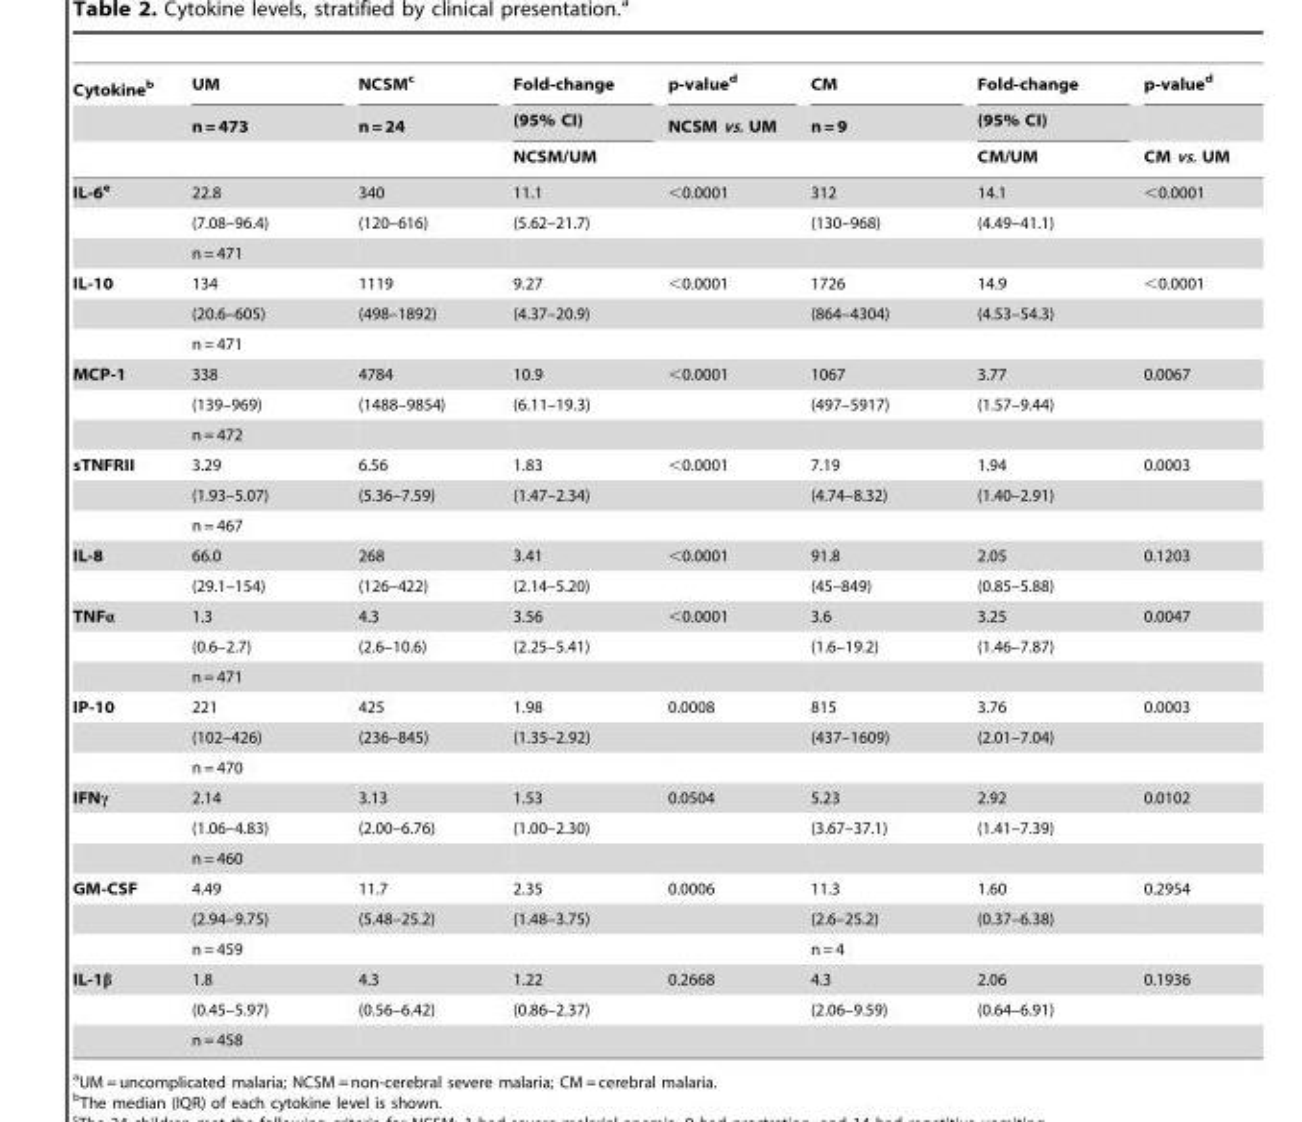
<table><thead><tr><td rowspan="3">Cytokine<sup>b</sup></td><td rowspan="3">UM n = 473</td><td rowspan="3">NCSM<sup>c</sup> n = 24</td><td rowspan="3">Fold-change (95% CI) NCSM/UM</td><td rowspan="3">p-value<sup>d</sup> NCSM vs. UM</td><td rowspan="3">CM n = 9</td><td rowspan="3">Fold-change (95% CI) CM/UM</td><td rowspan="3">p-value<sup>d</sup> CM vs. UM</td></tr><tr></tr><tr></tr></thead><tbody><tr><td rowspan="3">IL-6e</td><td>22.8</td><td>340</td><td>11.1</td><td>&lt;0.0001</td><td>312</td><td>14.1</td><td>&lt;0.0001</td></tr><tr><td>(7.08–96.4)</td><td>(120–616)</td><td>(5.62–21.7)</td><td></td><td>(130–968)</td><td>(4.49–41.1)</td><td></td></tr><tr><td>n = 471</td><td></td><td></td><td></td><td></td><td></td><td></td></tr><tr><td rowspan="3">IL-10</td><td>134</td><td>1119</td><td>9.27</td><td>&lt;0.0001</td><td>1726</td><td>14.9</td><td>&lt;0.0001</td></tr><tr><td>(20.6–605)</td><td>(498–1892)</td><td>(4.37–20.9)</td><td></td><td>(864–4304)</td><td>(4.53–54.3)</td><td></td></tr><tr><td>n = 471</td><td></td><td></td><td></td><td></td><td></td><td></td></tr><tr><td rowspan="3">MCP-1</td><td>338</td><td>4784</td><td>10.9</td><td>&lt;0.0001</td><td>1067</td><td>3.77</td><td>0.0067</td></tr><tr><td>(139–969)</td><td>(1488–9854)</td><td>(6.11–19.3)</td><td></td><td>(497–5917)</td><td>(1.57–9.44)</td><td></td></tr><tr><td>n = 472</td><td></td><td></td><td></td><td></td><td></td><td></td></tr><tr><td rowspan="3">sTNFRII</td><td>3.29</td><td>6.56</td><td>1.83</td><td>&lt;0.0001</td><td>7.19</td><td>1.94</td><td>0.0003</td></tr><tr><td>(1.93–5.07)</td><td>(5.36–7.59)</td><td>(1.47–2.34)</td><td></td><td>(4.74–8.32)</td><td>(1.40–2.91)</td><td></td></tr><tr><td>n = 467</td><td></td><td></td><td></td><td></td><td></td><td></td></tr><tr><td rowspan="2">IL-8</td><td>66.0</td><td>268</td><td>3.41</td><td>&lt;0.0001</td><td>91.8</td><td>2.05</td><td>0.1203</td></tr><tr><td>(29.1–154)</td><td>(126–422)</td><td>(2.14–5.20)</td><td></td><td>(45–849)</td><td>(0.85–5.88)</td><td></td></tr><tr><td rowspan="3">TNFα</td><td>1.3</td><td>4.3</td><td>3.56</td><td>&lt;0.0001</td><td>3.6</td><td>3.25</td><td>0.0047</td></tr><tr><td>(0.6–2.7)</td><td>(2.6–10.6)</td><td>(2.25–5.41)</td><td></td><td>(1.6–19.2)</td><td>(1.46–7.87)</td><td></td></tr><tr><td>n = 471</td><td></td><td></td><td></td><td></td><td></td><td></td></tr><tr><td rowspan="3">IP-10</td><td>221</td><td>425</td><td>1.98</td><td>0.0008</td><td>815</td><td>3.76</td><td>0.0003</td></tr><tr><td>(102–426)</td><td>(236–845)</td><td>(1.35–2.92)</td><td></td><td>(437–1609)</td><td>(2.01–7.04)</td><td></td></tr><tr><td>n = 470</td><td></td><td></td><td></td><td></td><td></td><td></td></tr><tr><td rowspan="3">IFNγ</td><td>2.14</td><td>3.13</td><td>1.53</td><td>0.0504</td><td>5.23</td><td>2.92</td><td>0.0102</td></tr><tr><td>(1.06–4.83)</td><td>(2.00–6.76)</td><td>(1.00–2.30)</td><td></td><td>(3.67–37.1)</td><td>(1.41–7.39)</td><td></td></tr><tr><td>n = 460</td><td></td><td></td><td></td><td></td><td></td><td></td></tr><tr><td rowspan="3">GM-CSF</td><td>4.49</td><td>11.7</td><td>2.35</td><td>0.0006</td><td>11.3</td><td>1.60</td><td>0.2954</td></tr><tr><td>(2.94–9.75)</td><td>(5.48–25.2)</td><td>(1.48–3.75)</td><td></td><td>(2.6–25.2)</td><td>(0.37–6.38)</td><td></td></tr><tr><td>n = 459</td><td></td><td></td><td></td><td>n = 4</td><td></td><td></td></tr><tr><td rowspan="3">IL-1β</td><td>1.8</td><td>4.3</td><td>1.22</td><td>0.2668</td><td>4.3</td><td>2.06</td><td>0.1936</td></tr><tr><td>(0.45–5.97)</td><td>(0.56–6.42)</td><td>(0.86–2.37)</td><td></td><td>(2.06–9.59)</td><td>(0.64–6.91)</td><td></td></tr><tr><td>n = 458</td><td></td><td></td><td></td><td></td><td></td><td></td></tr></tbody></table>